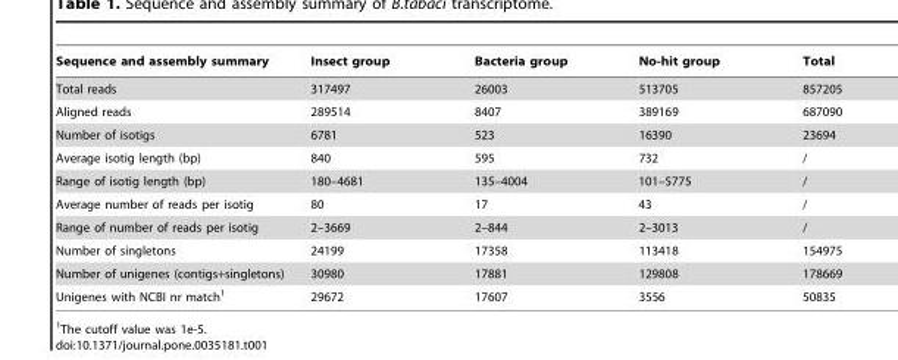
<table><thead><tr><td>Sequence and assembly summary</td><td>Insect group</td><td>Bacteria group</td><td>No-hit group</td><td>Total</td></tr></thead><tbody><tr><td>Total reads</td><td>317497</td><td>26003</td><td>513705</td><td>857205</td></tr><tr><td>Aligned reads</td><td>289514</td><td>8407</td><td>389169</td><td>687090</td></tr><tr><td>Number of isotigs</td><td>6781</td><td>523</td><td>16390</td><td>23694</td></tr><tr><td>Average isotig length (bp)</td><td>840</td><td>595</td><td>732</td><td>/</td></tr><tr><td>Range of isotig length (bp)</td><td>180–4681</td><td>135–4004</td><td>101–5775</td><td>/</td></tr><tr><td>Average number of reads per isotig</td><td>80</td><td>17</td><td>43</td><td>/</td></tr><tr><td>Range of number of reads per isotig</td><td>2–3669</td><td>2–844</td><td>2–3013</td><td>/</td></tr><tr><td>Number of singletons</td><td>24199</td><td>17358</td><td>113418</td><td>154975</td></tr><tr><td>Number of unigenes (contigs+singletons)</td><td>30980</td><td>17881</td><td>129808</td><td>178669</td></tr><tr><td>Unigenes with NCBI nr match<sup>1</sup></td><td>29672</td><td>17607</td><td>3556</td><td>50835</td></tr></tbody></table>